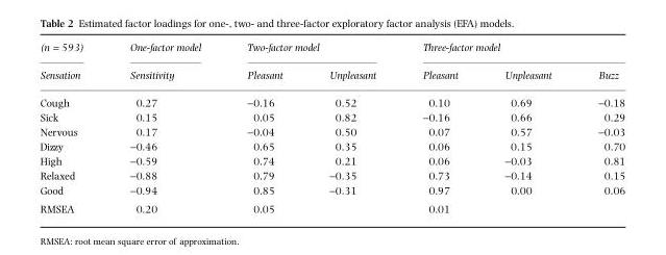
<table><thead><tr><td rowspan="2">(n = 593) Sensation</td><td rowspan="2">One-factor model Sensitivity</td><td colspan="2">Two-factor model</td><td colspan="3">Three-factor model</td></tr><tr><td>Pleasant</td><td>Unpleasant</td><td>Pleasant</td><td>Unpleasant</td><td>Buzz</td></tr></thead><tbody><tr><td>Cough</td><td>0.27</td><td>-0.16</td><td>0.52</td><td>0.10</td><td>0.69</td><td>-0.18</td></tr><tr><td>Sick</td><td>0.15</td><td>0.05</td><td>0.82</td><td>-0.16</td><td>0.66</td><td>0.29</td></tr><tr><td>Nervous</td><td>0.17</td><td>-0.04</td><td>0.50</td><td>0.07</td><td>0.57</td><td>-0.03</td></tr><tr><td>Dizzy</td><td>-0.46</td><td>0.65</td><td>0.35</td><td>0.06</td><td>0.15</td><td>0.70</td></tr><tr><td>High</td><td>-0.59</td><td>0.74</td><td>0.21</td><td>0.06</td><td>-0.03</td><td>0.81</td></tr><tr><td>Relaxed</td><td>-0.88</td><td>0.79</td><td>-0.35</td><td>0.73</td><td>-0.14</td><td>0.15</td></tr><tr><td>Good</td><td>-0.94</td><td>0.85</td><td>-0.31</td><td>0.97</td><td>0.00</td><td>0.06</td></tr><tr><td>RMSEA</td><td>0.20</td><td>0.05</td><td></td><td>0.01</td><td></td><td></td></tr></tbody></table>